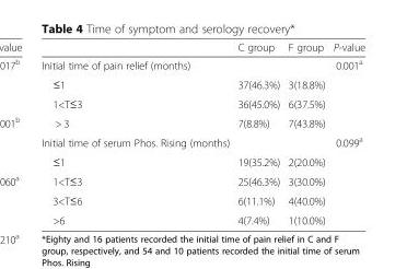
<table><thead><tr><td></td><td>C group</td><td>F group</td><td>P-value</td></tr></thead><tbody><tr><td colspan="3">Initial time of pain relief (months)</td><td rowspan="4">0.001<sup>a</sup></td></tr><tr><td>≤1</td><td>37(46.3%)</td><td>3(18.8%)</td></tr><tr><td>1&lt;T≤3</td><td>36(45.0%)</td><td>6(37.5%)</td></tr><tr><td>&gt; 3</td><td>7(8.8%)</td><td>7(43.8%)</td></tr><tr><td colspan="3">Initial time of serum Phos. Rising (months)</td><td rowspan="5">0.099<sup>a</sup></td></tr><tr><td>≤1</td><td>19(35.2%)</td><td>2(20.0%)</td></tr><tr><td>1&lt;T≤3</td><td>25(46.3%)</td><td>3(30.0%)</td></tr><tr><td>3&lt;T≤6</td><td>6(11.1%)</td><td>4(40.0%)</td></tr><tr><td>&gt;6</td><td>4(7.4%)</td><td>1(10.0%)</td></tr></tbody></table>